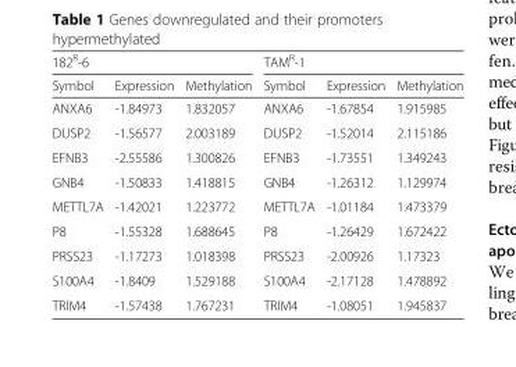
<table><thead><tr><td colspan="3">182<sup>R</sup>-6</td><td colspan="3">TAM<sup>R</sup>-1</td></tr><tr><td>Symbol</td><td>Expression</td><td>Methylation</td><td>Symbol</td><td>Expression</td><td>Methylation</td></tr></thead><tbody><tr><td>ANXA6</td><td>-1.84973</td><td>1.832057</td><td>ANXA6</td><td>-1.67854</td><td>1.915985</td></tr><tr><td>DUSP2</td><td>-1.56577</td><td>2.003189</td><td>DUSP2</td><td>-1.52014</td><td>2.115186</td></tr><tr><td>EFNB3</td><td>-2.55586</td><td>1.300826</td><td>EFNB3</td><td>-1.73551</td><td>1.349243</td></tr><tr><td>GNB4</td><td>-1.50833</td><td>1.418815</td><td>GNB4</td><td>-1.26312</td><td>1.129974</td></tr><tr><td>METTL7A</td><td>-1.42021</td><td>1.223772</td><td>METTL7A</td><td>-1.01184</td><td>1.473379</td></tr><tr><td>P8</td><td>-1.55328</td><td>1.688645</td><td>P8</td><td>-1.26429</td><td>1.672422</td></tr><tr><td>PRSS23</td><td>-1.17273</td><td>1.018398</td><td>PRSS23</td><td>-2.00926</td><td>1.17323</td></tr><tr><td>S100A4</td><td>-1.8409</td><td>1.529188</td><td>S100A4</td><td>-2.17128</td><td>1.478892</td></tr><tr><td>TRIM4</td><td>-1.57438</td><td>1.767231</td><td>TRIM4</td><td>-1.08051</td><td>1.945837</td></tr></tbody></table>